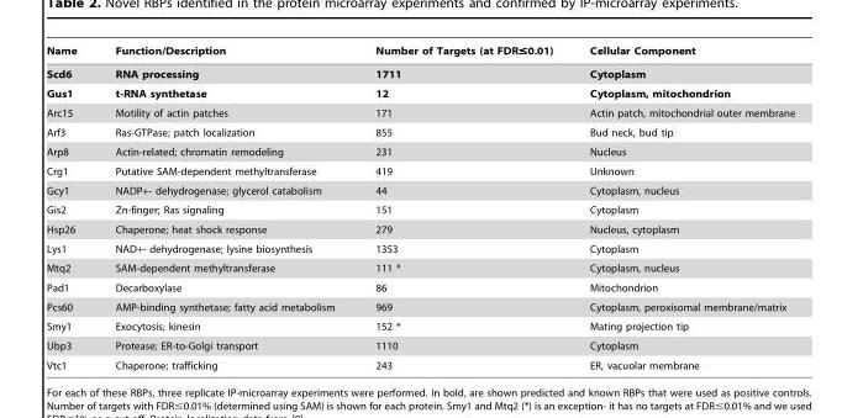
<table><thead><tr><td>Name</td><td>Function/Description</td><td>Number of Targets (at FDR≤0.01)</td><td>Cellular Component</td></tr></thead><tbody><tr><td>Scd6</td><td>RNA processing</td><td>1711</td><td>Cytoplasm</td></tr><tr><td>Gus1</td><td>t-RNA synthetase</td><td>12</td><td>Cytoplasm, mitochondrion</td></tr><tr><td>Arc15</td><td>Motility of actin patches</td><td>171</td><td>Actin patch, mitochondrial outer membrane</td></tr><tr><td>Arf3</td><td>Ras-GTPase; patch localization</td><td>855</td><td>Bud neck, bud tip</td></tr><tr><td>Arp8</td><td>Actin-related; chromatin remodeling</td><td>231</td><td>Nucleus</td></tr><tr><td>Crg1</td><td>Putative SAM-dependent methyltransferase</td><td>419</td><td>Unknown</td></tr><tr><td>Gcy1</td><td>NADP+- dehydrogenase; glycerol catabolism</td><td>44</td><td>Cytoplasm, nucleus</td></tr><tr><td>Gis2</td><td>Zn-finger; Ras signaling</td><td>151</td><td>Cytoplasm</td></tr><tr><td>Hsp26</td><td>Chaperone; heat shock response</td><td>279</td><td>Nucleus, cytoplasm</td></tr><tr><td>Lys1</td><td>NAD+- dehydrogenase; lysine biosynthesis</td><td>1353</td><td>Cytoplasm</td></tr><tr><td>Mtq2</td><td>SAM-dependent methyltransferase</td><td>111 *</td><td>Cytoplasm, nucleus</td></tr><tr><td>Pad1</td><td>Decarboxylase</td><td>86</td><td>Mitochondrion</td></tr><tr><td>Pcs60</td><td>AMP-binding synthetase; fatty acid metabolism</td><td>969</td><td>Cytoplasm, peroxisomal membrane/matrix</td></tr><tr><td>Smy1</td><td>Exocytosis; kinesin</td><td>152 *</td><td>Mating projection tip</td></tr><tr><td>Ubp3</td><td>Protease; ER-to-Golgi transport</td><td>1110</td><td>Cytoplasm</td></tr><tr><td>Vtc1</td><td>Chaperone; trafficking</td><td>243</td><td>ER, vacuolar membrane</td></tr></tbody></table>